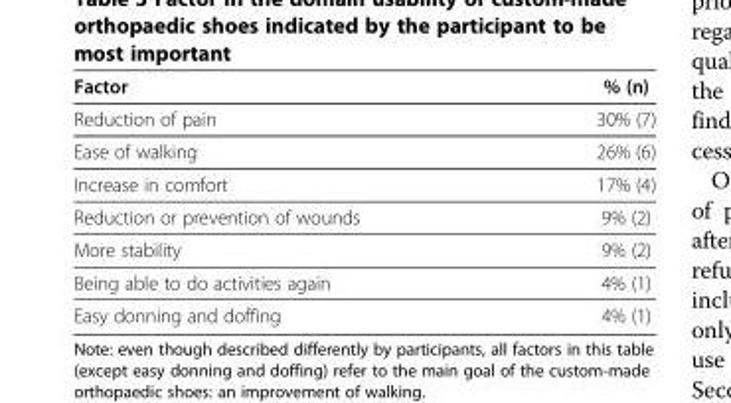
<table><thead><tr><td>Factor</td><td>% (n)</td></tr></thead><tbody><tr><td>Reduction of pain</td><td>30% (7)</td></tr><tr><td>Ease of walking</td><td>26% (6)</td></tr><tr><td>Increase in comfort</td><td>17% (4)</td></tr><tr><td>Reduction or prevention of wounds</td><td>9% (2)</td></tr><tr><td>More stability</td><td>9% (2)</td></tr><tr><td>Being able to do activities again</td><td>4% (1)</td></tr><tr><td>Easy donning and doffing</td><td>4% (1)</td></tr></tbody></table>